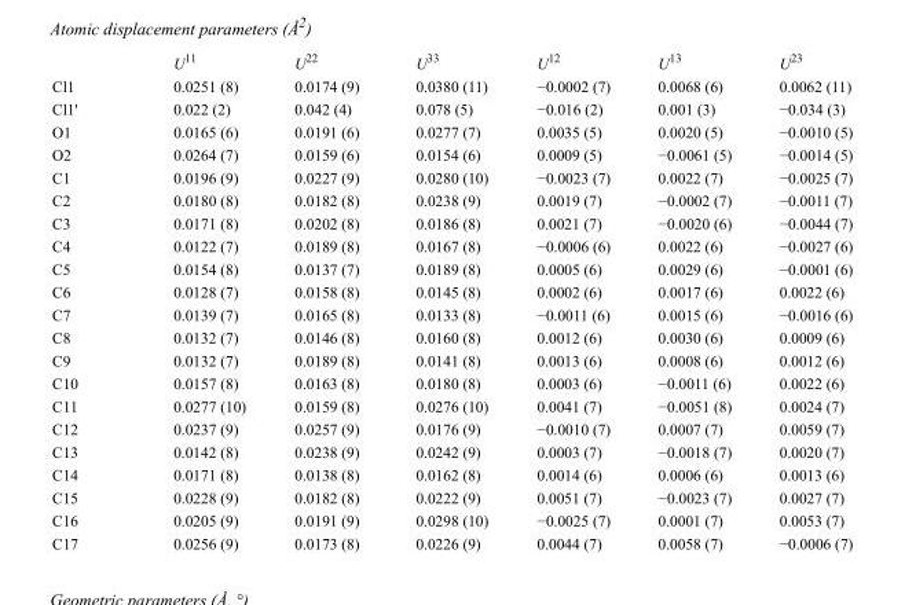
<table><thead><tr><td></td><td>U<sup>11</sup></td><td>U<sup>22</sup></td><td>U<sup>33</sup></td><td>U<sup>12</sup></td><td>U<sup>13</sup></td><td>U<sup>23</sup></td></tr></thead><tbody><tr><td>Cl1</td><td>0.0251 (8)</td><td>0.0174 (9)</td><td>0.0380 (11)</td><td>−0.0002 (7)</td><td>0.0068 (6)</td><td>0.0062 (11)</td></tr><tr><td>Cl1&#x27;</td><td>0.022 (2)</td><td>0.042 (4)</td><td>0.078 (5)</td><td>−0.016 (2)</td><td>0.001 (3)</td><td>−0.034 (3)</td></tr><tr><td>O1</td><td>0.0165 (6)</td><td>0.0191 (6)</td><td>0.0277 (7)</td><td>0.0035 (5)</td><td>0.0020 (5)</td><td>−0.0010 (5)</td></tr><tr><td>O2</td><td>0.0264 (7)</td><td>0.0159 (6)</td><td>0.0154 (6)</td><td>0.0009 (5)</td><td>−0.0061 (5)</td><td>−0.0014 (5)</td></tr><tr><td>C1</td><td>0.0196 (9)</td><td>0.0227 (9)</td><td>0.0280 (10)</td><td>−0.0023 (7)</td><td>0.0022 (7)</td><td>−0.0025 (7)</td></tr><tr><td>C2</td><td>0.0180 (8)</td><td>0.0182 (8)</td><td>0.0238 (9)</td><td>0.0019 (7)</td><td>−0.0002 (7)</td><td>−0.0011 (7)</td></tr><tr><td>C3</td><td>0.0171 (8)</td><td>0.0202 (8)</td><td>0.0186 (8)</td><td>0.0021 (7)</td><td>−0.0020 (6)</td><td>−0.0044 (7)</td></tr><tr><td>C4</td><td>0.0122 (7)</td><td>0.0189 (8)</td><td>0.0167 (8)</td><td>−0.0006 (6)</td><td>0.0022 (6)</td><td>−0.0027 (6)</td></tr><tr><td>C5</td><td>0.0154 (8)</td><td>0.0137 (7)</td><td>0.0189 (8)</td><td>0.0005 (6)</td><td>0.0029 (6)</td><td>−0.0001 (6)</td></tr><tr><td>C6</td><td>0.0128 (7)</td><td>0.0158 (8)</td><td>0.0145 (8)</td><td>0.0002 (6)</td><td>0.0017 (6)</td><td>0.0022 (6)</td></tr><tr><td>C7</td><td>0.0139 (7)</td><td>0.0165 (8)</td><td>0.0133 (8)</td><td>−0.0011 (6)</td><td>0.0015 (6)</td><td>−0.0016 (6)</td></tr><tr><td>C8</td><td>0.0132 (7)</td><td>0.0146 (8)</td><td>0.0160 (8)</td><td>0.0012 (6)</td><td>0.0030 (6)</td><td>0.0009 (6)</td></tr><tr><td>C9</td><td>0.0132 (7)</td><td>0.0189 (8)</td><td>0.0141 (8)</td><td>0.0013 (6)</td><td>0.0008 (6)</td><td>0.0012 (6)</td></tr><tr><td>C10</td><td>0.0157 (8)</td><td>0.0163 (8)</td><td>0.0180 (8)</td><td>0.0003 (6)</td><td>−0.0011 (6)</td><td>0.0022 (6)</td></tr><tr><td>C11</td><td>0.0277 (10)</td><td>0.0159 (8)</td><td>0.0276 (10)</td><td>0.0041 (7)</td><td>−0.0051 (8)</td><td>0.0024 (7)</td></tr><tr><td>C12</td><td>0.0237 (9)</td><td>0.0257 (9)</td><td>0.0176 (9)</td><td>−0.0010 (7)</td><td>0.0007 (7)</td><td>0.0059 (7)</td></tr><tr><td>C13</td><td>0.0142 (8)</td><td>0.0238 (9)</td><td>0.0242 (9)</td><td>0.0003 (7)</td><td>−0.0018 (7)</td><td>0.0020 (7)</td></tr><tr><td>C14</td><td>0.0171 (8)</td><td>0.0138 (8)</td><td>0.0162 (8)</td><td>0.0014 (6)</td><td>0.0006 (6)</td><td>0.0013 (6)</td></tr><tr><td>C15</td><td>0.0228 (9)</td><td>0.0182 (8)</td><td>0.0222 (9)</td><td>0.0051 (7)</td><td>−0.0023 (7)</td><td>0.0027 (7)</td></tr><tr><td>C16</td><td>0.0205 (9)</td><td>0.0191 (9)</td><td>0.0298 (10)</td><td>−0.0025 (7)</td><td>0.0001 (7)</td><td>0.0053 (7)</td></tr><tr><td>C17</td><td>0.0256 (9)</td><td>0.0173 (8)</td><td>0.0226 (9)</td><td>0.0044 (7)</td><td>0.0058 (7)</td><td>−0.0006 (7)</td></tr></tbody></table>